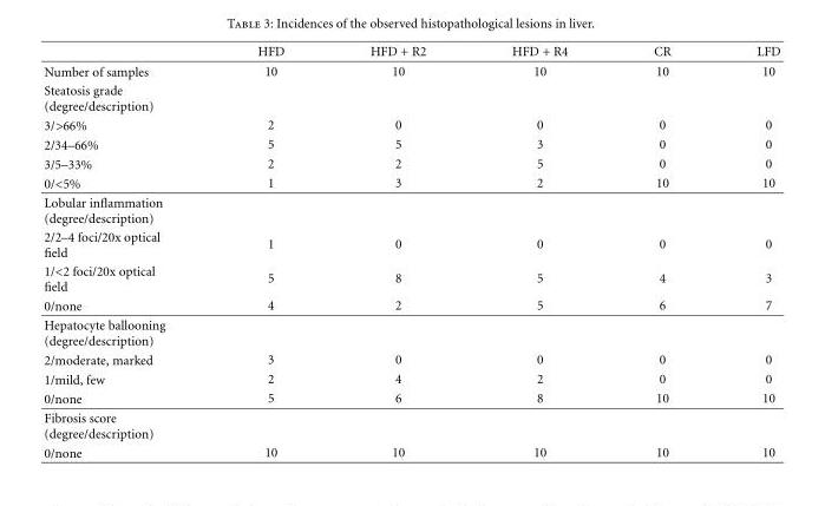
<table><thead><tr><td></td><td>HFD</td><td>HFD + R2</td><td>HFD + R4</td><td>CR</td><td>LFD</td></tr></thead><tbody><tr><td>Number of samples</td><td>10</td><td>10</td><td>10</td><td>10</td><td>10</td></tr><tr><td colspan="6">Steatosis grade (degree/description)</td></tr><tr><td>3/&gt;66%</td><td>2</td><td>0</td><td>0</td><td>0</td><td>0</td></tr><tr><td>2/34–66%</td><td>5</td><td>5</td><td>3</td><td>0</td><td>0</td></tr><tr><td>3/5–33%</td><td>2</td><td>2</td><td>5</td><td>0</td><td>0</td></tr><tr><td>0/&lt;5%</td><td>1</td><td>3</td><td>2</td><td>10</td><td>10</td></tr><tr><td colspan="6">Lobular inflammation (degree/description)</td></tr><tr><td>2/2–4 foci/20x optical field</td><td>1</td><td>0</td><td>0</td><td>0</td><td>0</td></tr><tr><td>1/&lt;2 foci/20x optical field</td><td>5</td><td>8</td><td>5</td><td>4</td><td>3</td></tr><tr><td>0/none</td><td>4</td><td>2</td><td>5</td><td>6</td><td>7</td></tr><tr><td colspan="6">Hepatocyte ballooning (degree/description)</td></tr><tr><td>2/moderate, marked</td><td>3</td><td>0</td><td>0</td><td>0</td><td>0</td></tr><tr><td>1/mild, few</td><td>2</td><td>4</td><td>2</td><td>0</td><td>0</td></tr><tr><td>0/none</td><td>5</td><td>6</td><td>8</td><td>10</td><td>10</td></tr><tr><td colspan="6">Fibrosis score (degree/description)</td></tr><tr><td>0/none</td><td>10</td><td>10</td><td>10</td><td>10</td><td>10</td></tr></tbody></table>